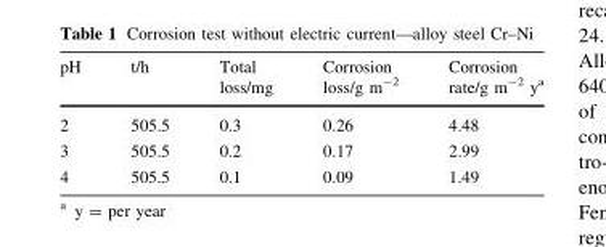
<table><thead><tr><td>pH</td><td>t/h</td><td>Total loss/mg</td><td>Corrosion loss/g m<sup>-2</sup></td><td>Corrosion rate/g m<sup>-2</sup> y<sup>a</sup></td></tr></thead><tbody><tr><td>2</td><td>505.5</td><td>0.3</td><td>0.26</td><td>4.48</td></tr><tr><td>3</td><td>505.5</td><td>0.2</td><td>0.17</td><td>2.99</td></tr><tr><td>4</td><td>505.5</td><td>0.1</td><td>0.09</td><td>1.49</td></tr></tbody></table>